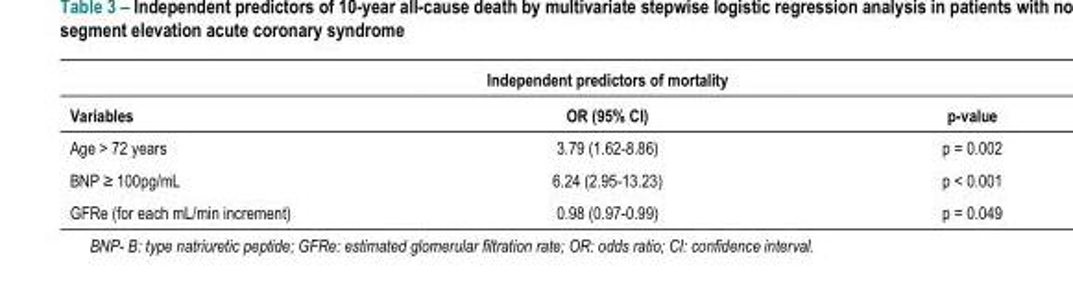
<table><thead><tr><td colspan="3">Independent predictors of mortality</td></tr><tr><td>Variables</td><td>OR (95% CI)</td><td>p-value</td></tr></thead><tbody><tr><td>Age &gt; 72 years</td><td>3.79 (1.62-8.86)</td><td>p = 0.002</td></tr><tr><td>BNP ≥ 100pg/mL</td><td>6.24 (2.95-13.23)</td><td>p &lt; 0.001</td></tr><tr><td>GFRe (for each mL/min increment)</td><td>0.98 (0.97-0.99)</td><td>p = 0.049</td></tr></tbody></table>